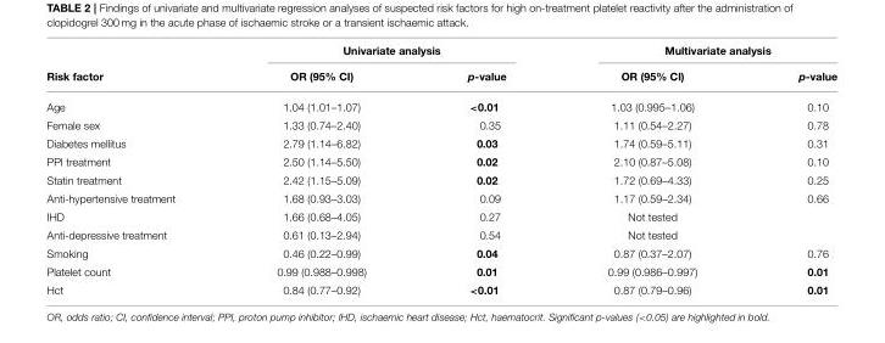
<table><thead><tr><td rowspan="2">Risk factor</td><td colspan="2">Univariate analysis</td><td colspan="2">Multivariate analysis</td></tr><tr><td>OR (95% CI)</td><td>p-value</td><td>OR (95% CI)</td><td>p-value</td></tr></thead><tbody><tr><td>Age</td><td>1.04 (1.01–1.07)</td><td>&lt;0.01</td><td>1.03 (0.995–1.06)</td><td>0.10</td></tr><tr><td>Female sex</td><td>1.33 (0.74–2.40)</td><td>0.35</td><td>1.11 (0.54–2.27)</td><td>0.78</td></tr><tr><td>Diabetes mellitus</td><td>2.79 (1.14–6.82)</td><td>0.03</td><td>1.74 (0.59–5.11)</td><td>0.31</td></tr><tr><td>PPI treatment</td><td>2.50 (1.14–5.50)</td><td>0.02</td><td>2.10 (0.87–5.08)</td><td>0.10</td></tr><tr><td>Statin treatment</td><td>2.42 (1.15–5.09)</td><td>0.02</td><td>1.72 (0.69–4.33)</td><td>0.25</td></tr><tr><td>Anti-hypertensive treatment</td><td>1.68 (0.93–3.03)</td><td>0.09</td><td>1.17 (0.59–2.34)</td><td>0.66</td></tr><tr><td>IHD</td><td>1.66 (0.68–4.05)</td><td>0.27</td><td>Not tested</td><td></td></tr><tr><td>Anti-depressive treatment</td><td>0.61 (0.13–2.94)</td><td>0.54</td><td>Not tested</td><td></td></tr><tr><td>Smoking</td><td>0.46 (0.22–0.99)</td><td>0.04</td><td>0.87 (0.37–2.07)</td><td>0.76</td></tr><tr><td>Platelet count</td><td>0.99 (0.988–0.998)</td><td>0.01</td><td>0.99 (0.986–0.997)</td><td>0.01</td></tr><tr><td>Hct</td><td>0.84 (0.77–0.92)</td><td>&lt;0.01</td><td>0.87 (0.79–0.96)</td><td>0.01</td></tr></tbody></table>